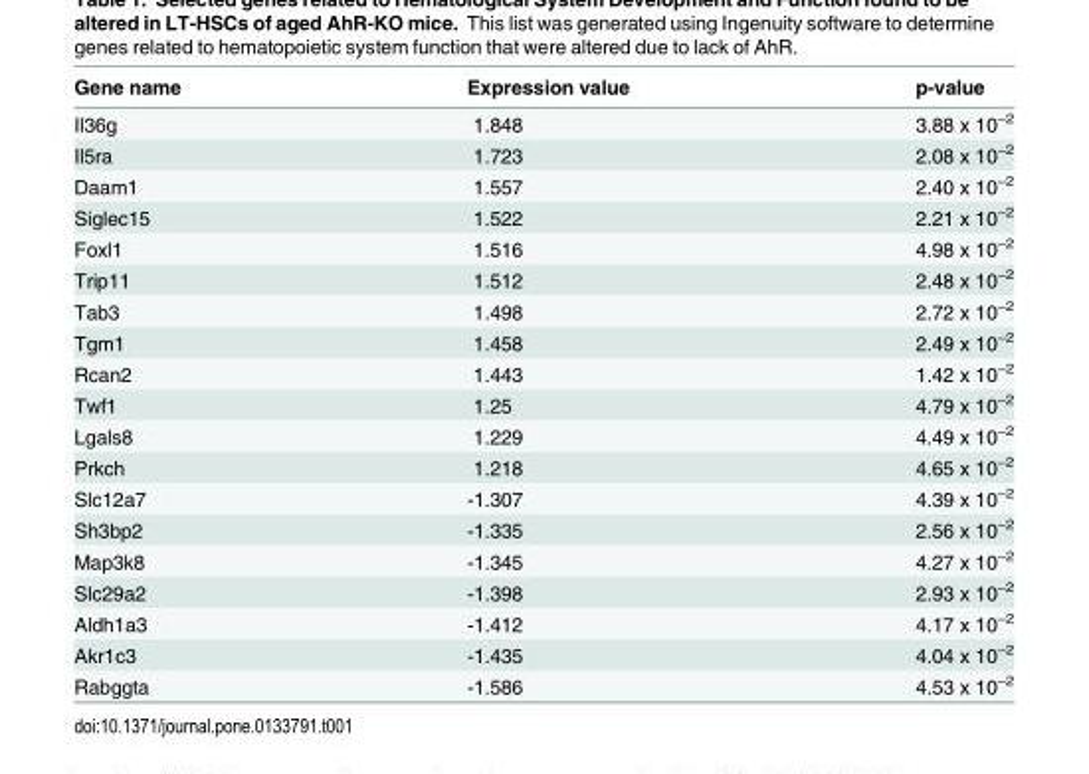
<table><thead><tr><td>Gene name</td><td>Expression value</td><td>p-value</td></tr></thead><tbody><tr><td>Il36g</td><td>1.848</td><td>3.88 x 10<sup>−2</sup></td></tr><tr><td>Il5ra</td><td>1.723</td><td>2.08 x 10<sup>−2</sup></td></tr><tr><td>Daam1</td><td>1.557</td><td>2.40 x 10<sup>−2</sup></td></tr><tr><td>Siglec15</td><td>1.522</td><td>2.21 x 10<sup>−2</sup></td></tr><tr><td>Foxl1</td><td>1.516</td><td>4.98 x 10<sup>−2</sup></td></tr><tr><td>Trip11</td><td>1.512</td><td>2.48 x 10<sup>−2</sup></td></tr><tr><td>Tab3</td><td>1.498</td><td>2.72 x 10<sup>−2</sup></td></tr><tr><td>Tgm1</td><td>1.458</td><td>2.49 x 10<sup>−2</sup></td></tr><tr><td>Rcan2</td><td>1.443</td><td>1.42 x 10<sup>−2</sup></td></tr><tr><td>Twf1</td><td>1.25</td><td>4.79 x 10<sup>−2</sup></td></tr><tr><td>Lgals8</td><td>1.229</td><td>4.49 x 10<sup>−2</sup></td></tr><tr><td>Prkch</td><td>1.218</td><td>4.65 x 10<sup>−2</sup></td></tr><tr><td>Slc12a7</td><td>-1.307</td><td>4.39 x 10<sup>−2</sup></td></tr><tr><td>Sh3bp2</td><td>-1.335</td><td>2.56 x 10<sup>−2</sup></td></tr><tr><td>Map3k8</td><td>-1.345</td><td>4.27 x 10<sup>−2</sup></td></tr><tr><td>Slc29a2</td><td>-1.398</td><td>2.93 x 10<sup>−2</sup></td></tr><tr><td>Aldh1a3</td><td>-1.412</td><td>4.17 x 10<sup>−2</sup></td></tr><tr><td>Akr1c3</td><td>-1.435</td><td>4.04 x 10<sup>−2</sup></td></tr><tr><td>Rabggta</td><td>-1.586</td><td>4.53 x 10<sup>−2</sup></td></tr></tbody></table>